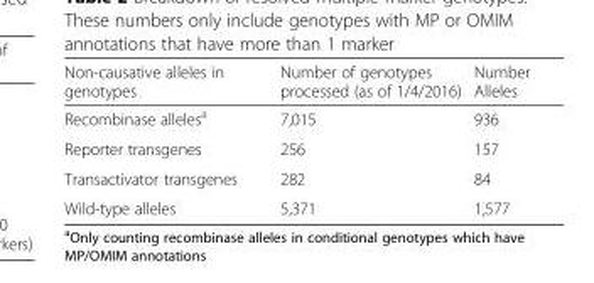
<table><thead><tr><td>Non-causative alleles in genotypes</td><td>Number of genotypes processed (as of 1/4/2016)</td><td>Number Alleles</td></tr></thead><tbody><tr><td>Recombinase alleles<sup>a</sup></td><td>7,015</td><td>936</td></tr><tr><td>Reporter transgenes</td><td>256</td><td>157</td></tr><tr><td>Transactivator transgenes</td><td>282</td><td>84</td></tr><tr><td>Wild-type alleles</td><td>5,371</td><td>1,577</td></tr></tbody></table>